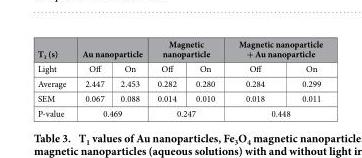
<table><thead><tr><td rowspan="2">T<sub>1</sub> (s) Light</td><td colspan="2">Au nanoparticle</td><td colspan="2">Magnetic nanoparticle</td><td colspan="2">Magnetic nanoparticle + Au nanoparticle</td></tr><tr><td>Off</td><td>On</td><td>Off</td><td>On</td><td>Off</td><td>On</td></tr></thead><tbody><tr><td>Average</td><td>2.447</td><td>2.453</td><td>0.282</td><td>0.280</td><td>0.284</td><td>0.299</td></tr><tr><td>SEM</td><td>0.067</td><td>0.088</td><td>0.014</td><td>0.010</td><td>0.018</td><td>0.011</td></tr><tr><td>P-value</td><td colspan="2">0.469</td><td colspan="2">0.247</td><td colspan="2">0.448</td></tr></tbody></table>